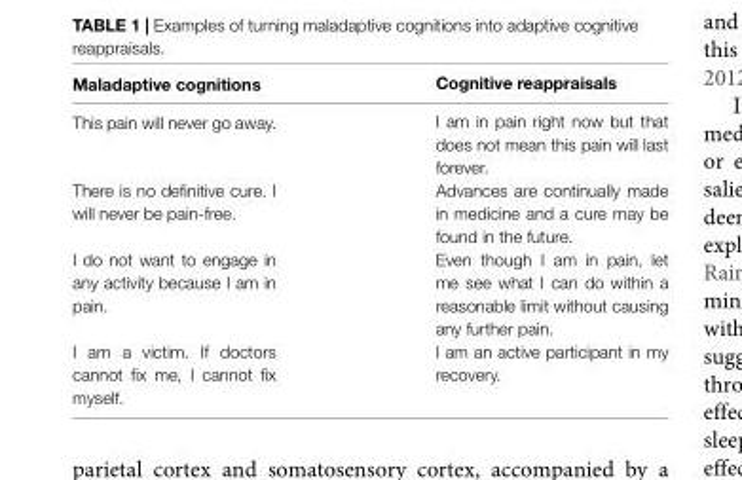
<table><thead><tr><td>Maladaptive cognitions</td><td>Cognitive reappraisals</td></tr></thead><tbody><tr><td>This pain will never go away.</td><td>I am in pain right now but that does not mean this pain will last forever.</td></tr><tr><td>There is no definitive cure. I will never be pain-free.</td><td>Advances are continually made in medicine and a cure may be found in the future.</td></tr><tr><td>I do not want to engage in any activity because I am in pain.</td><td>Even though I am in pain, let me see what I can do within a reasonable limit without causing any further pain.</td></tr><tr><td>I am a victim. If doctors cannot fix me, I cannot fix myself.</td><td>I am an active participant in my recovery.</td></tr></tbody></table>